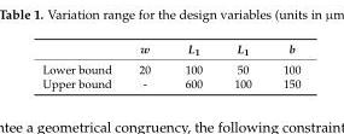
<table><thead><tr><td></td><td>w</td><td>L<sub>1</sub></td><td>L<sub>1</sub></td><td>b</td></tr></thead><tbody><tr><td>Lower bound</td><td>20</td><td>100</td><td>50</td><td>100</td></tr><tr><td>Upper bound</td><td>-</td><td>600</td><td>100</td><td>150</td></tr></tbody></table>